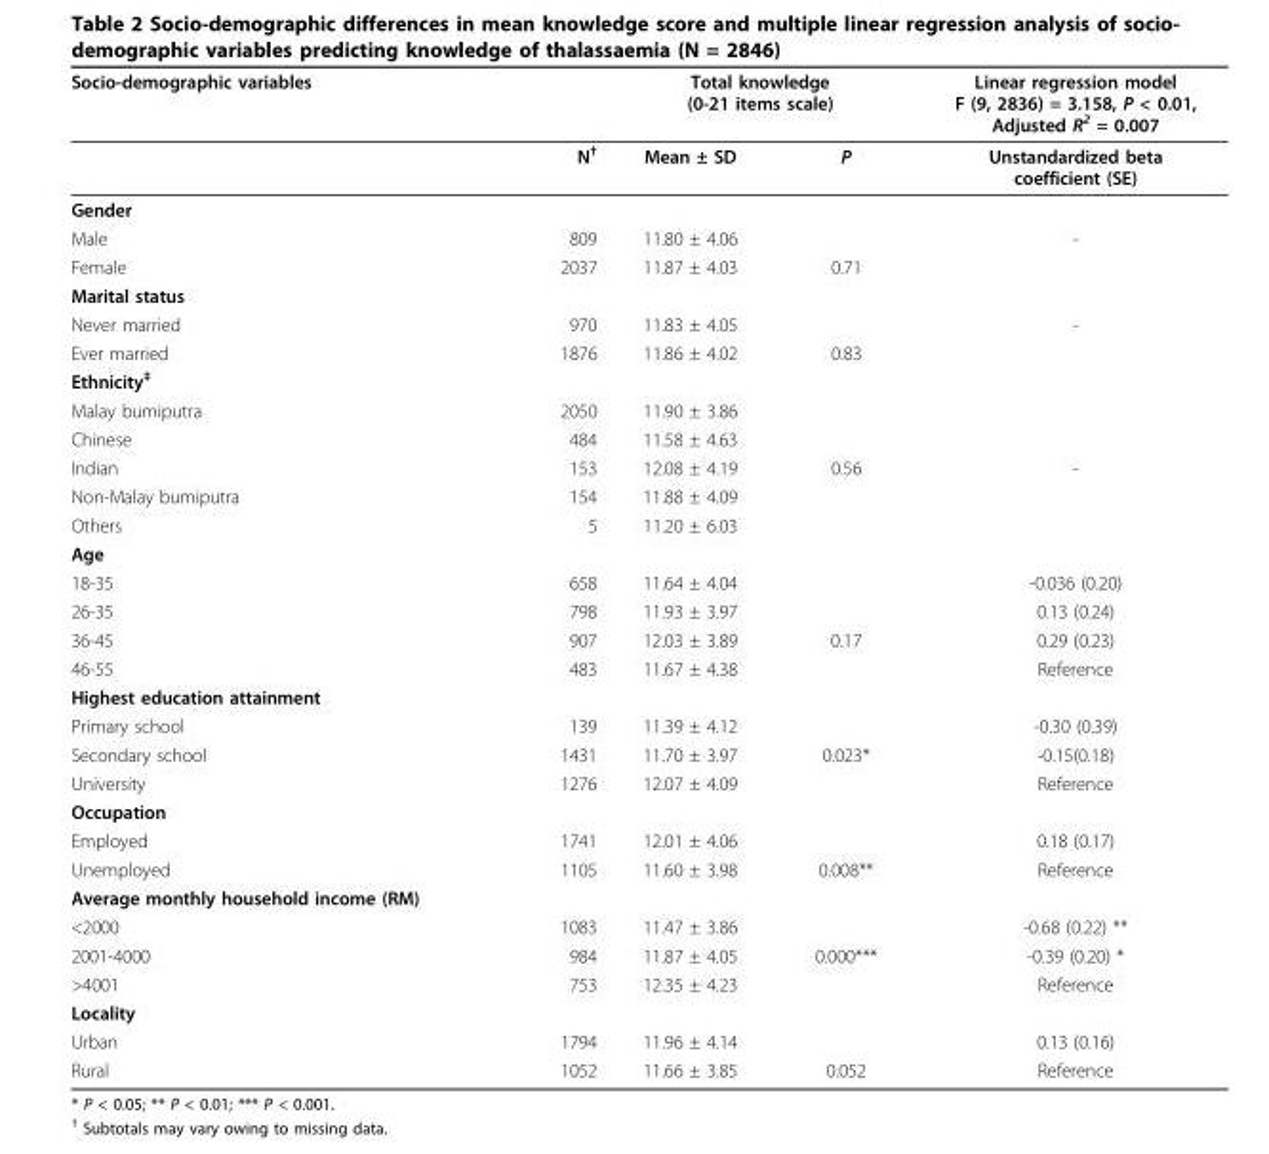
<table><thead><tr><td rowspan="2">Socio-demographic variables</td><td rowspan="2">N†</td><td colspan="2">Total knowledge (0-21 items scale)</td><td rowspan="2">Linear regression model F (9, 2836) = 3.158, P &lt; 0.01, Adjusted R2 = 0.007 Unstandardized beta coefficient (SE)</td></tr><tr><td>Mean ± SD</td><td>P</td></tr></thead><tbody><tr><td colspan="5">Gender</td></tr><tr><td>Male</td><td>809</td><td>11.80 ± 4.06</td><td></td><td>-</td></tr><tr><td>Female</td><td>2037</td><td>11.87 ± 4.03</td><td>0.71</td><td></td></tr><tr><td colspan="5">Marital status</td></tr><tr><td>Never married</td><td>970</td><td>11.83 ± 4.05</td><td></td><td>-</td></tr><tr><td>Ever married</td><td>1876</td><td>11.86 ± 4.02</td><td>0.83</td><td></td></tr><tr><td colspan="5">Ethnicity<sup>‡</sup></td></tr><tr><td>Malay bumiputra</td><td>2050</td><td>11.90 ± 3.86</td><td></td><td></td></tr><tr><td>Chinese</td><td>484</td><td>11.58 ± 4.63</td><td></td><td></td></tr><tr><td>Indian</td><td>153</td><td>12.08 ± 4.19</td><td>0.56</td><td>-</td></tr><tr><td>Non-Malay bumiputra</td><td>154</td><td>11.88 ± 4.09</td><td></td><td></td></tr><tr><td>Others</td><td>5</td><td>11.20 ± 6.03</td><td></td><td></td></tr><tr><td colspan="5">Age</td></tr><tr><td>18-35</td><td>658</td><td>11.64 ± 4.04</td><td></td><td>-0.036 (0.20)</td></tr><tr><td>26-35</td><td>798</td><td>11.93 ± 3.97</td><td></td><td>0.13 (0.24)</td></tr><tr><td>36-45</td><td>907</td><td>12.03 ± 3.89</td><td>0.17</td><td>0.29 (0.23)</td></tr><tr><td>46-55</td><td>483</td><td>11.67 ± 4.38</td><td></td><td>Reference</td></tr><tr><td colspan="5">Highest education attainment</td></tr><tr><td>Primary school</td><td>139</td><td>11.39 ± 4.12</td><td></td><td>-0.30 (0.39)</td></tr><tr><td>Secondary school</td><td>1431</td><td>11.70 ± 3.97</td><td>0.023*</td><td>-0.15(0.18)</td></tr><tr><td>University</td><td>1276</td><td>12.07 ± 4.09</td><td></td><td>Reference</td></tr><tr><td colspan="5">Occupation</td></tr><tr><td>Employed</td><td>1741</td><td>12.01 ± 4.06</td><td></td><td>0.18 (0.17)</td></tr><tr><td>Unemployed</td><td>1105</td><td>11.60 ± 3.98</td><td>0.008**</td><td>Reference</td></tr><tr><td colspan="5">Average monthly household income (RM)</td></tr><tr><td>&lt;2000</td><td>1083</td><td>11.47 ± 3.86</td><td></td><td>-0.68 (0.22) **</td></tr><tr><td>2001-4000</td><td>984</td><td>11.87 ± 4.05</td><td>0.000***</td><td>-0.39 (0.20) *</td></tr><tr><td>&gt;4001</td><td>753</td><td>12.35 ± 4.23</td><td></td><td>Reference</td></tr><tr><td colspan="5">Locality</td></tr><tr><td>Urban</td><td>1794</td><td>11.96 ± 4.14</td><td></td><td>0.13 (0.16)</td></tr><tr><td>Rural</td><td>1052</td><td>11.66 ± 3.85</td><td>0.052</td><td>Reference</td></tr></tbody></table>